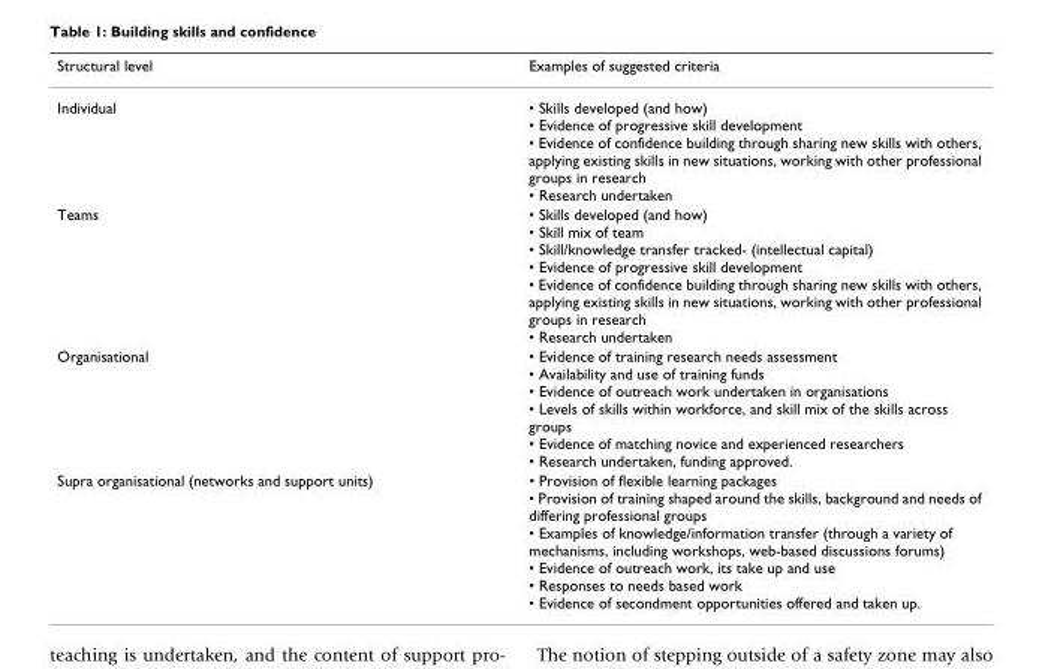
<table><thead><tr><td>Structural level</td><td>Examples of suggested criteria</td></tr></thead><tbody><tr><td>Individual</td><td>• Skills developed (and how) • Evidence of progressive skill development • Evidence of confidence building through sharing new skills with others, applying existing skills in new situations, working with other professional groups in research • Research undertaken</td></tr><tr><td>Teams</td><td>• Skills developed (and how) • Skill mix of team • Skill/knowledge transfer tracked- (intellectual capital) • Evidence of progressive skill development • Evidence of confidence building through sharing new skills with others, applying existing skills in new situations, working with other professional groups in research • Research undertaken</td></tr><tr><td>Organisational</td><td>• Evidence of training research needs assessment • Availability and use of training funds • Evidence of outreach work undertaken in organisations • Levels of skills within workforce, and skill mix of the skills across groups • Evidence of matching novice and experienced researchers • Research undertaken, funding approved.</td></tr><tr><td>Supra organisational (networks and support units)</td><td>• Provision of flexible learning packages • Provision of training shaped around the skills, background and needs of differing professional groups • Examples of knowledge/information transfer (through a variety of mechanisms, including workshops, web-based discussions forums) • Evidence of outreach work, its take up and use • Responses to needs based work • Evidence of secondment opportunities offered and taken up.</td></tr></tbody></table>